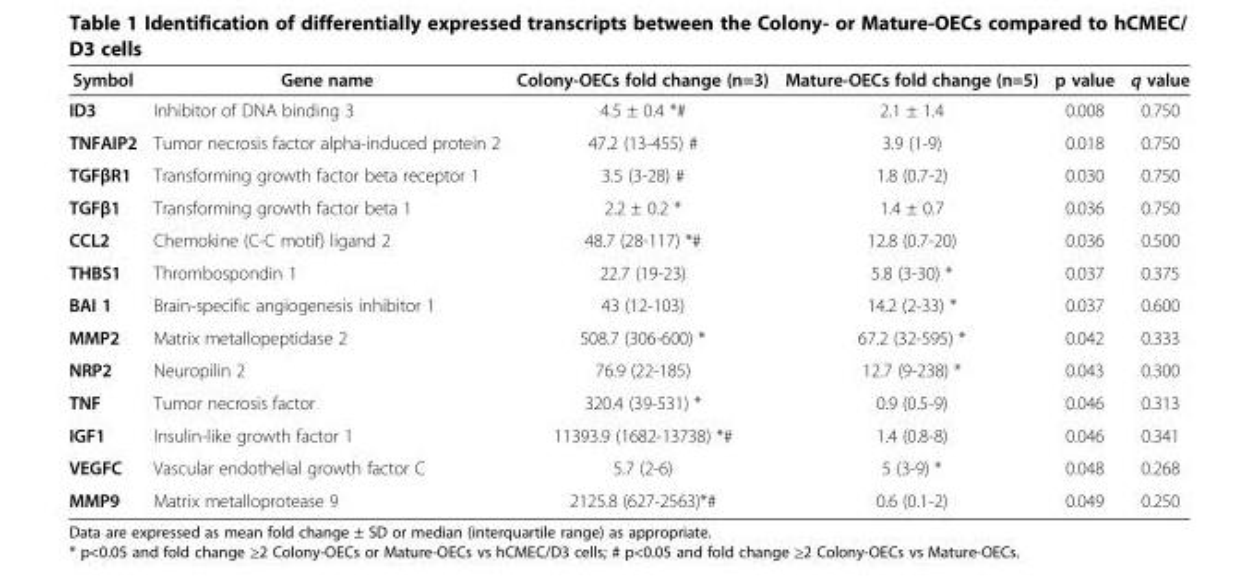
<table><thead><tr><td>Symbol</td><td>Gene name</td><td>Colony-OECs fold change (n=3)</td><td>Mature-OECs fold change (n=5)</td><td>p value</td><td>q value</td></tr></thead><tbody><tr><td>ID3</td><td>Inhibitor of DNA binding 3</td><td>4.5 ± 0.4 *#</td><td>2.1 ± 1.4</td><td>0.008</td><td>0.750</td></tr><tr><td>TNFAIP2</td><td>Tumor necrosis factor alpha-induced protein 2</td><td>47.2 (13-455) #</td><td>3.9 (1-9)</td><td>0.018</td><td>0.750</td></tr><tr><td>TGFβR1</td><td>Transforming growth factor beta receptor 1</td><td>3.5 (3-28) #</td><td>1.8 (0.7-2)</td><td>0.030</td><td>0.750</td></tr><tr><td>TGFβ1</td><td>Transforming growth factor beta 1</td><td>2.2 ± 0.2 *</td><td>1.4 ± 0.7</td><td>0.036</td><td>0.750</td></tr><tr><td>CCL2</td><td>Chemokine (C-C motif) ligand 2</td><td>48.7 (28-117) *#</td><td>12.8 (0.7-20)</td><td>0.036</td><td>0.500</td></tr><tr><td>THBS1</td><td>Thrombospondin 1</td><td>22.7 (19-23)</td><td>5.8 (3-30) *</td><td>0.037</td><td>0.375</td></tr><tr><td>BAI 1</td><td>Brain-specific angiogenesis inhibitor 1</td><td>43 (12-103)</td><td>14.2 (2-33) *</td><td>0.037</td><td>0.600</td></tr><tr><td>MMP2</td><td>Matrix metallopeptidase 2</td><td>508.7 (306-600) *</td><td>67.2 (32-595) *</td><td>0.042</td><td>0.333</td></tr><tr><td>NRP2</td><td>Neuropilin 2</td><td>76.9 (22-185)</td><td>12.7 (9-238) *</td><td>0.043</td><td>0.300</td></tr><tr><td>TNF</td><td>Tumor necrosis factor</td><td>320.4 (39-531) *</td><td>0.9 (0.5-9)</td><td>0.046</td><td>0.313</td></tr><tr><td>IGF1</td><td>Insulin-like growth factor 1</td><td>11393.9 (1682-13738) *#</td><td>1.4 (0.8-8)</td><td>0.046</td><td>0.341</td></tr><tr><td>VEGFC</td><td>Vascular endothelial growth factor C</td><td>5.7 (2-6)</td><td>5 (3-9) *</td><td>0.048</td><td>0.268</td></tr><tr><td>MMP9</td><td>Matrix metalloprotease 9</td><td>2125.8 (627-2563)*#</td><td>0.6 (0.1-2)</td><td>0.049</td><td>0.250</td></tr></tbody></table>